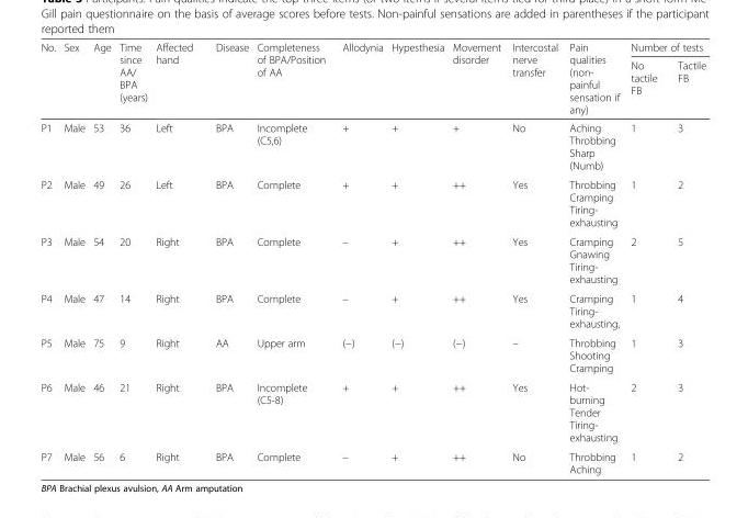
<table><thead><tr><td rowspan="2">No.</td><td rowspan="2">Sex</td><td rowspan="2">Age</td><td rowspan="2">Time since AA/ BPA (years)</td><td rowspan="2">Affected hand</td><td rowspan="2">Disease</td><td rowspan="2">Completeness of BPA/Position of AA</td><td rowspan="2">Allodynia</td><td rowspan="2">Hypesthesia</td><td rowspan="2">Movement disorder</td><td rowspan="2">Intercostal nerve transfer</td><td rowspan="2">Pain qualities (non- painful sensation if any)</td><td colspan="2">Number of tests</td></tr><tr><td>No tactile FB</td><td>Tactile FB</td></tr></thead><tbody><tr><td>P1</td><td>Male</td><td>53</td><td>36</td><td>Left</td><td>BPA</td><td>Incomplete (C5,6)</td><td>+</td><td>+</td><td>+</td><td>No</td><td>Aching Throbbing Sharp (Numb)</td><td>1</td><td>3</td></tr><tr><td>P2</td><td>Male</td><td>49</td><td>26</td><td>Left</td><td>BPA</td><td>Complete</td><td>+</td><td>+</td><td>++</td><td>Yes</td><td>Throbbing Cramping Tiring- exhausting</td><td>1</td><td>2</td></tr><tr><td>P3</td><td>Male</td><td>54</td><td>20</td><td>Right</td><td>BPA</td><td>Complete</td><td>–</td><td>+</td><td>++</td><td>Yes</td><td>Cramping Gnawing Tiring- exhausting</td><td>2</td><td>5</td></tr><tr><td>P4</td><td>Male</td><td>47</td><td>14</td><td>Right</td><td>BPA</td><td>Complete</td><td>–</td><td>+</td><td>++</td><td>Yes</td><td>Cramping Tiring- exhausting,</td><td>1</td><td>4</td></tr><tr><td>P5</td><td>Male</td><td>75</td><td>9</td><td>Right</td><td>AA</td><td>Upper arm</td><td>(−)</td><td>(−)</td><td>(−)</td><td>–</td><td>Throbbing Shooting Cramping</td><td>1</td><td>3</td></tr><tr><td>P6</td><td>Male</td><td>46</td><td>21</td><td>Right</td><td>BPA</td><td>Incomplete (C5-8)</td><td>+</td><td>+</td><td>++</td><td>Yes</td><td>Hot- burning Tender Tiring- exhausting</td><td>2</td><td>3</td></tr><tr><td>P7</td><td>Male</td><td>56</td><td>6</td><td>Right</td><td>BPA</td><td>Complete</td><td>–</td><td>+</td><td>++</td><td>No</td><td>Throbbing Aching</td><td>1</td><td>2</td></tr></tbody></table>